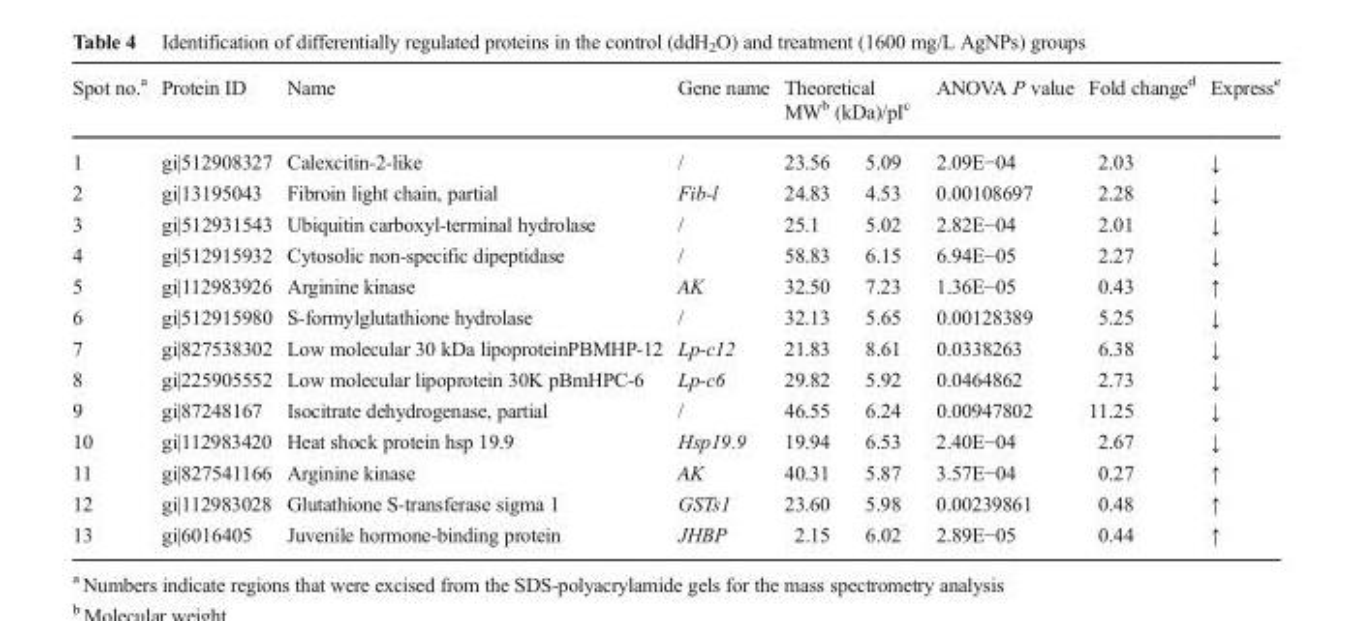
<table><thead><tr><td rowspan="2">Spot no.<sup>a</sup> 1</td><td rowspan="2">Protein ID gi|512908327</td><td rowspan="2">Name Calexcitin-2-like</td><td rowspan="2">Gene name /</td><td colspan="2">Theoretical MW<sup>b</sup> (kDa)/pI<sup>c</sup></td><td rowspan="2">ANOVA P value 2.09E−04</td><td rowspan="2">Fold change<sup>d</sup> 2.03</td><td rowspan="2">Express<sup>e</sup> ↓</td></tr><tr><td>23.56</td><td>5.09</td></tr></thead><tbody><tr><td>2</td><td>gi|13195043</td><td>Fibroin light chain, partial</td><td>Fib-l</td><td>24.83</td><td>4.53</td><td>0.00108697</td><td>2.28</td><td>↓</td></tr><tr><td>3</td><td>gi|512931543</td><td>Ubiquitin carboxyl-terminal hydrolase</td><td>/</td><td>25.1</td><td>5.02</td><td>2.82E−04</td><td>2.01</td><td>↓</td></tr><tr><td>4</td><td>gi|512915932</td><td>Cytosolic non-specific dipeptidase</td><td>/</td><td>58.83</td><td>6.15</td><td>6.94E−05</td><td>2.27</td><td>↓</td></tr><tr><td>5</td><td>gi|112983926</td><td>Arginine kinase</td><td>AK</td><td>32.50</td><td>7.23</td><td>1.36E−05</td><td>0.43</td><td>↑</td></tr><tr><td>6</td><td>gi|512915980</td><td>S-formylglutathione hydrolase</td><td>/</td><td>32.13</td><td>5.65</td><td>0.00128389</td><td>5.25</td><td>↓</td></tr><tr><td>7</td><td>gi|827538302</td><td>Low molecular 30 kDa lipoproteinPBMHP-12</td><td>Lp-c12</td><td>21.83</td><td>8.61</td><td>0.0338263</td><td>6.38</td><td>↓</td></tr><tr><td>8</td><td>gi|225905552</td><td>Low molecular lipoprotein 30K pBmHPC-6</td><td>Lp-c6</td><td>29.82</td><td>5.92</td><td>0.0464862</td><td>2.73</td><td>↓</td></tr><tr><td>9</td><td>gi|87248167</td><td>Isocitrate dehydrogenase, partial</td><td>/</td><td>46.55</td><td>6.24</td><td>0.00947802</td><td>11.25</td><td>↓</td></tr><tr><td>10</td><td>gi|112983420</td><td>Heat shock protein hsp 19.9</td><td>Hsp19.9</td><td>19.94</td><td>6.53</td><td>2.40E−04</td><td>2.67</td><td>↓</td></tr><tr><td>11</td><td>gi|827541166</td><td>Arginine kinase</td><td>AK</td><td>40.31</td><td>5.87</td><td>3.57E−04</td><td>0.27</td><td>↑</td></tr><tr><td>12</td><td>gi|112983028</td><td>Glutathione S-transferase sigma 1</td><td>GSTs1</td><td>23.60</td><td>5.98</td><td>0.00239861</td><td>0.48</td><td>↑</td></tr><tr><td>13</td><td>gi|6016405</td><td>Juvenile hormone-binding protein</td><td>JHBP</td><td>2.15</td><td>6.02</td><td>2.89E−05</td><td>0.44</td><td>↑</td></tr></tbody></table>